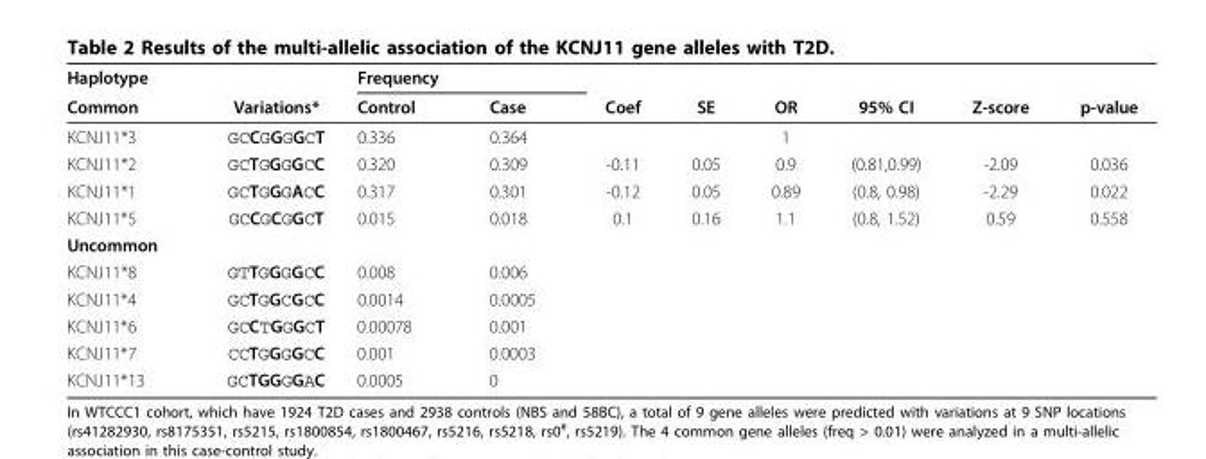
<table><thead><tr><td rowspan="2">Haplotype Common</td><td rowspan="2">Variations*</td><td rowspan="2">Frequency Control</td><td rowspan="2">Case</td><td rowspan="2">Coef</td><td rowspan="2">SE</td><td rowspan="2">OR</td><td rowspan="2">95% CI</td><td rowspan="2">Z-score</td><td rowspan="2">p-value</td></tr><tr></tr></thead><tbody><tr><td>KCNJ11*3</td><td>GCCGGGGCT</td><td>0.336</td><td>0.364</td><td></td><td></td><td>1</td><td></td><td></td><td></td></tr><tr><td>KCNJ11*2</td><td>GCTGGGGCC</td><td>0.320</td><td>0.309</td><td>-0.11</td><td>0.05</td><td>0.9</td><td>(0.81,0.99)</td><td>-2.09</td><td>0.036</td></tr><tr><td>KCNJ11*1</td><td>GCTGGGACC</td><td>0.317</td><td>0.301</td><td>-0.12</td><td>0.05</td><td>0.89</td><td>(0.8, 0.98)</td><td>-2.29</td><td>0.022</td></tr><tr><td>KCNJ11*5</td><td>GCCGCGGCT</td><td>0.015</td><td>0.018</td><td>0.1</td><td>0.16</td><td>1.1</td><td>(0.8, 1.52)</td><td>0.59</td><td>0.558</td></tr><tr><td colspan="10">Uncommon</td></tr><tr><td>KCNJ11*8</td><td>GTTGGGGCC</td><td>0.008</td><td>0.006</td><td></td><td></td><td></td><td></td><td></td><td></td></tr><tr><td>KCNJ11*4</td><td>GCTGGCGCC</td><td>0.0014</td><td>0.0005</td><td></td><td></td><td></td><td></td><td></td><td></td></tr><tr><td>KCNJ11*6</td><td>GCCTGGGCT</td><td>0.00078</td><td>0.001</td><td></td><td></td><td></td><td></td><td></td><td></td></tr><tr><td>KCNJ11*7</td><td>CCTGGGGCC</td><td>0.001</td><td>0.0003</td><td></td><td></td><td></td><td></td><td></td><td></td></tr><tr><td>KCNJ11*13</td><td>GCTGGGGAC</td><td>0.0005</td><td>0</td><td></td><td></td><td></td><td></td><td></td><td></td></tr></tbody></table>